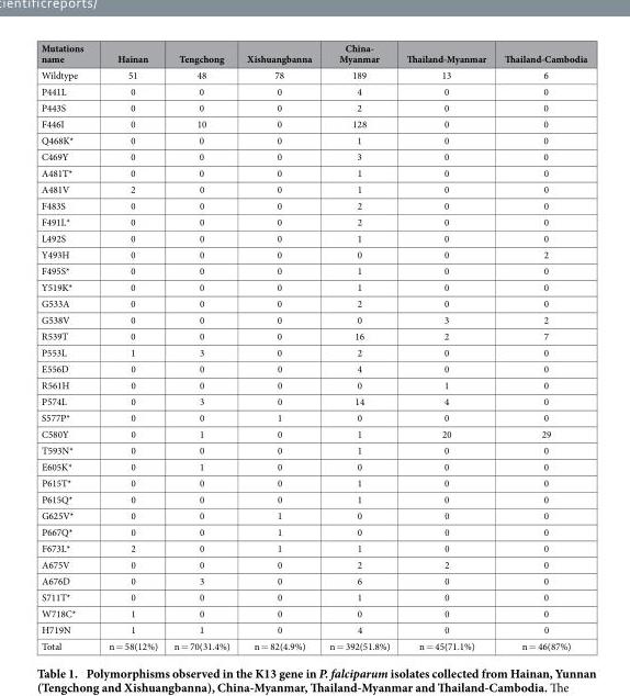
<table><thead><tr><td>Mutations name</td><td>Hainan</td><td>Tengchong</td><td>Xishuangbanna</td><td>China- Myanmar</td><td>Thailand-Myanmar</td><td>Thailand-Cambodia</td></tr></thead><tbody><tr><td>Wildtype</td><td>51</td><td>48</td><td>78</td><td>189</td><td>13</td><td>6</td></tr><tr><td>P441L</td><td>0</td><td>0</td><td>0</td><td>4</td><td>0</td><td>0</td></tr><tr><td>P443S</td><td>0</td><td>0</td><td>0</td><td>2</td><td>0</td><td>0</td></tr><tr><td>F446I</td><td>0</td><td>10</td><td>0</td><td>128</td><td>0</td><td>0</td></tr><tr><td>Q468K*</td><td>0</td><td>0</td><td>0</td><td>1</td><td>0</td><td>0</td></tr><tr><td>C469Y</td><td>0</td><td>0</td><td>0</td><td>3</td><td>0</td><td>0</td></tr><tr><td>A481T*</td><td>0</td><td>0</td><td>0</td><td>1</td><td>0</td><td>0</td></tr><tr><td>A481V</td><td>2</td><td>0</td><td>0</td><td>1</td><td>0</td><td>0</td></tr><tr><td>F483S</td><td>0</td><td>0</td><td>0</td><td>2</td><td>0</td><td>0</td></tr><tr><td>F491L*</td><td>0</td><td>0</td><td>0</td><td>2</td><td>0</td><td>0</td></tr><tr><td>L492S</td><td>0</td><td>0</td><td>0</td><td>1</td><td>0</td><td>0</td></tr><tr><td>Y493H</td><td>0</td><td>0</td><td>0</td><td>0</td><td>0</td><td>2</td></tr><tr><td>F495S*</td><td>0</td><td>0</td><td>0</td><td>1</td><td>0</td><td>0</td></tr><tr><td>Y519K*</td><td>0</td><td>0</td><td>0</td><td>1</td><td>0</td><td>0</td></tr><tr><td>G533A</td><td>0</td><td>0</td><td>0</td><td>2</td><td>0</td><td>0</td></tr><tr><td>G538V</td><td>0</td><td>0</td><td>0</td><td>0</td><td>3</td><td>2</td></tr><tr><td>R539T</td><td>0</td><td>0</td><td>0</td><td>16</td><td>2</td><td>7</td></tr><tr><td>P553L</td><td>1</td><td>3</td><td>0</td><td>2</td><td>0</td><td>0</td></tr><tr><td>E556D</td><td>0</td><td>0</td><td>0</td><td>4</td><td>0</td><td>0</td></tr><tr><td>R561H</td><td>0</td><td>0</td><td>0</td><td>0</td><td>1</td><td>0</td></tr><tr><td>P574L</td><td>0</td><td>3</td><td>0</td><td>14</td><td>4</td><td>0</td></tr><tr><td>S577P*</td><td>0</td><td>0</td><td>1</td><td>0</td><td>0</td><td>0</td></tr><tr><td>C580Y</td><td>0</td><td>1</td><td>0</td><td>1</td><td>20</td><td>29</td></tr><tr><td>T593N*</td><td>0</td><td>0</td><td>0</td><td>1</td><td>0</td><td>0</td></tr><tr><td>E605K*</td><td>0</td><td>1</td><td>0</td><td>0</td><td>0</td><td>0</td></tr><tr><td>P615T*</td><td>0</td><td>0</td><td>0</td><td>1</td><td>0</td><td>0</td></tr><tr><td>P615Q*</td><td>0</td><td>0</td><td>0</td><td>1</td><td>0</td><td>0</td></tr><tr><td>G625V*</td><td>0</td><td>0</td><td>1</td><td>0</td><td>0</td><td>0</td></tr><tr><td>P667Q*</td><td>0</td><td>0</td><td>1</td><td>0</td><td>0</td><td>0</td></tr><tr><td>F673L*</td><td>2</td><td>0</td><td>1</td><td>1</td><td>0</td><td>0</td></tr><tr><td>A675V</td><td>0</td><td>0</td><td>0</td><td>2</td><td>2</td><td>0</td></tr><tr><td>A676D</td><td>0</td><td>3</td><td>0</td><td>6</td><td>0</td><td>0</td></tr><tr><td>S711T*</td><td>0</td><td>0</td><td>0</td><td>1</td><td>0</td><td>0</td></tr><tr><td>W718C*</td><td>1</td><td>0</td><td>0</td><td>0</td><td>0</td><td>0</td></tr><tr><td>H719N</td><td>1</td><td>1</td><td>0</td><td>4</td><td>0</td><td>0</td></tr><tr><td>Total</td><td>n = 58(12%)</td><td>n = 70(31.4%)</td><td>n = 82(4.9%)</td><td>n = 392(51.8%)</td><td>n = 45(71.1%)</td><td>n = 46(87%)</td></tr></tbody></table>